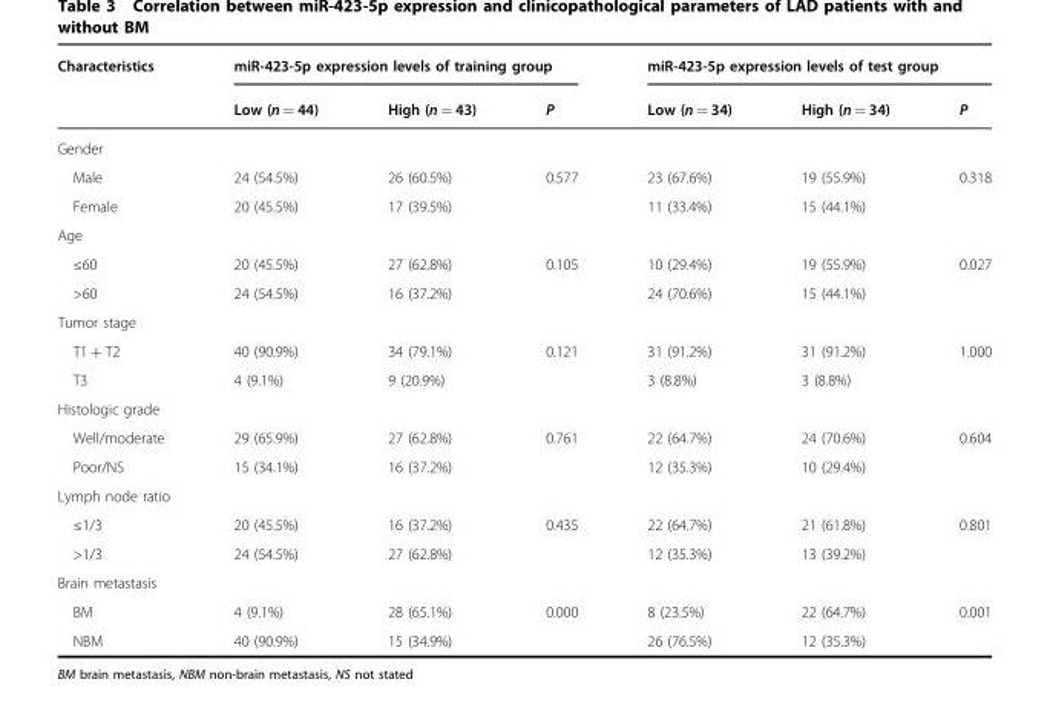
<table><thead><tr><td rowspan="2">Characteristics</td><td colspan="3">miR-423-5p expression levels of training group</td><td colspan="3">miR-423-5p expression levels of test group</td></tr><tr><td>Low (n = 44)</td><td>High (n = 43)</td><td>P</td><td>Low (n = 34)</td><td>High (n = 34)</td><td>P</td></tr></thead><tbody><tr><td colspan="7">Gender</td></tr><tr><td>Male</td><td>24 (54.5%)</td><td>26 (60.5%)</td><td>0.577</td><td>23 (67.6%)</td><td>19 (55.9%)</td><td>0.318</td></tr><tr><td>Female</td><td>20 (45.5%)</td><td>17 (39.5%)</td><td></td><td>11 (33.4%)</td><td>15 (44.1%)</td><td></td></tr><tr><td colspan="7">Age</td></tr><tr><td>≤60</td><td>20 (45.5%)</td><td>27 (62.8%)</td><td>0.105</td><td>10 (29.4%)</td><td>19 (55.9%)</td><td>0.027</td></tr><tr><td>&gt;60</td><td>24 (54.5%)</td><td>16 (37.2%)</td><td></td><td>24 (70.6%)</td><td>15 (44.1%)</td><td></td></tr><tr><td colspan="7">Tumor stage</td></tr><tr><td>T1 + T2</td><td>40 (90.9%)</td><td>34 (79.1%)</td><td>0.121</td><td>31 (91.2%)</td><td>31 (91.2%)</td><td>1.000</td></tr><tr><td>T3</td><td>4 (9.1%)</td><td>9 (20.9%)</td><td></td><td>3 (8.8%)</td><td>3 (8.8%)</td><td></td></tr><tr><td colspan="7">Histologic grade</td></tr><tr><td>Well/moderate</td><td>29 (65.9%)</td><td>27 (62.8%)</td><td>0.761</td><td>22 (64.7%)</td><td>24 (70.6%)</td><td>0.604</td></tr><tr><td>Poor/NS</td><td>15 (34.1%)</td><td>16 (37.2%)</td><td></td><td>12 (35.3%)</td><td>10 (29.4%)</td><td></td></tr><tr><td colspan="7">Lymph node ratio</td></tr><tr><td>≤1/3</td><td>20 (45.5%)</td><td>16 (37.2%)</td><td>0.435</td><td>22 (64.7%)</td><td>21 (61.8%)</td><td>0.801</td></tr><tr><td>&gt;1/3</td><td>24 (54.5%)</td><td>27 (62.8%)</td><td></td><td>12 (35.3%)</td><td>13 (39.2%)</td><td></td></tr><tr><td colspan="7">Brain metastasis</td></tr><tr><td>BM</td><td>4 (9.1%)</td><td>28 (65.1%)</td><td>0.000</td><td>8 (23.5%)</td><td>22 (64.7%)</td><td>0.001</td></tr><tr><td>NBM</td><td>40 (90.9%)</td><td>15 (34.9%)</td><td></td><td>26 (76.5%)</td><td>12 (35.3%)</td><td></td></tr></tbody></table>